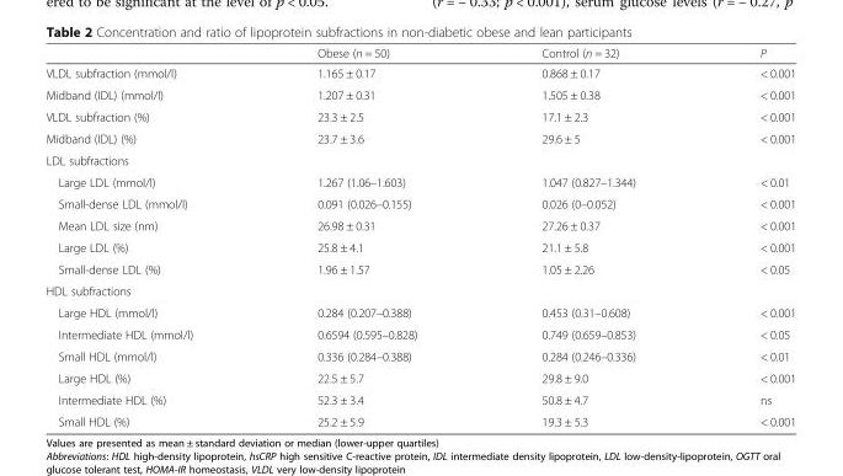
<table><thead><tr><td></td><td>Obese (n = 50)</td><td>Control (n = 32)</td><td>P</td></tr></thead><tbody><tr><td>VLDL subfraction (mmol/l)</td><td>1.165 ± 0.17</td><td>0.868 ± 0.17</td><td>&lt; 0.001</td></tr><tr><td>Midband (IDL) (mmol/l)</td><td>1.207 ± 0.31</td><td>1.505 ± 0.38</td><td>&lt; 0.001</td></tr><tr><td>VLDL subfraction (%)</td><td>23.3 ± 2.5</td><td>17.1 ± 2.3</td><td>&lt; 0.001</td></tr><tr><td>Midband (IDL) (%)</td><td>23.7 ± 3.6</td><td>29.6 ± 5</td><td>&lt; 0.001</td></tr><tr><td colspan="4">LDL subfractions</td></tr><tr><td>Large LDL (mmol/l)</td><td>1.267 (1.06–1.603)</td><td>1.047 (0.827–1.344)</td><td>&lt; 0.01</td></tr><tr><td>Small-dense LDL (mmol/l)</td><td>0.091 (0.026–0.155)</td><td>0.026 (0–0.052)</td><td>&lt; 0.001</td></tr><tr><td>Mean LDL size (nm)</td><td>26.98 ± 0.31</td><td>27.26 ± 0.37</td><td>&lt; 0.001</td></tr><tr><td>Large LDL (%)</td><td>25.8 ± 4.1</td><td>21.1 ± 5.8</td><td>&lt; 0.001</td></tr><tr><td>Small-dense LDL (%)</td><td>1.96 ± 1.57</td><td>1.05 ± 2.26</td><td>&lt; 0.05</td></tr><tr><td colspan="4">HDL subfractions</td></tr><tr><td>Large HDL (mmol/l)</td><td>0.284 (0.207–0.388)</td><td>0.453 (0.31–0.608)</td><td>&lt; 0.001</td></tr><tr><td>Intermediate HDL (mmol/l)</td><td>0.6594 (0.595–0.828)</td><td>0.749 (0.659–0.853)</td><td>&lt; 0.05</td></tr><tr><td>Small HDL (mmol/l)</td><td>0.336 (0.284–0.388)</td><td>0.284 (0.246–0.336)</td><td>&lt; 0.01</td></tr><tr><td>Large HDL (%)</td><td>22.5 ± 5.7</td><td>29.8 ± 9.0</td><td>&lt; 0.001</td></tr><tr><td>Intermediate HDL (%)</td><td>52.3 ± 3.4</td><td>50.8 ± 4.7</td><td>ns</td></tr><tr><td>Small HDL (%)</td><td>25.2 ± 5.9</td><td>19.3 ± 5.3</td><td>&lt; 0.001</td></tr></tbody></table>